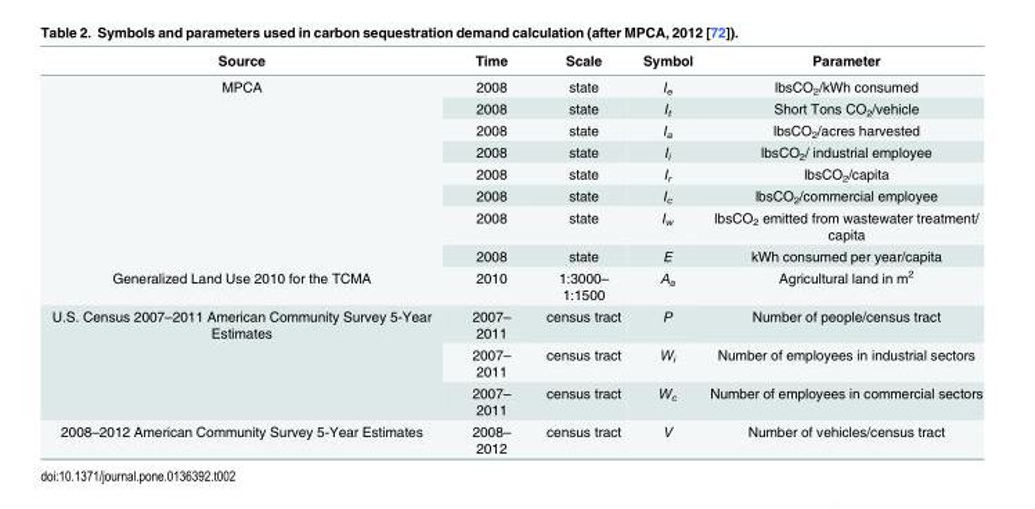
<table><thead><tr><td>Source</td><td>Time</td><td>Scale</td><td>Symbol</td><td>Parameter</td></tr></thead><tbody><tr><td rowspan="8">MPCA</td><td>2008</td><td>state</td><td>I<sub>e</sub></td><td>lbsCO<sub>2</sub>/kWh consumed</td></tr><tr><td>2008</td><td>state</td><td>I<sub>t</sub></td><td>Short Tons CO<sub>2</sub>/vehicle</td></tr><tr><td>2008</td><td>state</td><td>I<sub>a</sub></td><td>lbsCO<sub>2</sub>/acres harvested</td></tr><tr><td>2008</td><td>state</td><td>I<sub>i</sub></td><td>lbsCO<sub>2</sub>/ industrial employee</td></tr><tr><td>2008</td><td>state</td><td>I<sub>r</sub></td><td>lbsCO<sub>2</sub>/capita</td></tr><tr><td>2008</td><td>state</td><td>I<sub>c</sub></td><td>lbsCO<sub>2</sub>/commercial employee</td></tr><tr><td>2008</td><td>state</td><td>I<sub>w</sub></td><td>lbsCO<sub>2</sub> emitted from wastewater treatment/ capita</td></tr><tr><td>2008</td><td>state</td><td>E</td><td>kWh consumed per year/capita</td></tr><tr><td>Generalized Land Use 2010 for the TCMA</td><td>2010</td><td>1:3000– 1:1500</td><td>A<sub>a</sub></td><td>Agricultural land in m<sup>2</sup></td></tr><tr><td rowspan="3">U.S. Census 2007–2011 American Community Survey 5-Year Estimates</td><td>2007– 2011</td><td>census tract</td><td>P</td><td>Number of people/census tract</td></tr><tr><td>2007– 2011</td><td>census tract</td><td>W<sub>i</sub></td><td>Number of employees in industrial sectors</td></tr><tr><td>2007– 2011</td><td>census tract</td><td>W<sub>c</sub></td><td>Number of employees in commercial sectors</td></tr><tr><td>2008–2012 American Community Survey 5-Year Estimates</td><td>2008– 2012</td><td>census tract</td><td>V</td><td>Number of vehicles/census tract</td></tr></tbody></table>